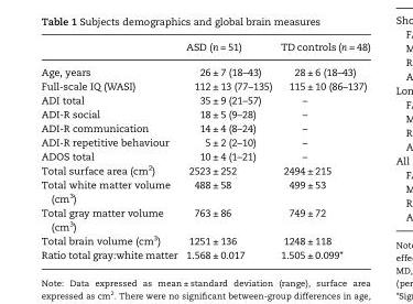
<table><thead><tr><td></td><td>ASD (n = 51)</td><td>TD controls (n = 48)</td></tr></thead><tbody><tr><td>Age, years</td><td>26 ± 7 (18–43)</td><td>28 ± 6 (18–43)</td></tr><tr><td>Full-scale IQ (WASI)</td><td>112 ± 13 (77–135)</td><td>115 ± 10 (86–137)</td></tr><tr><td>ADI total</td><td>35 ± 9 (21–57)</td><td>–</td></tr><tr><td>ADI-R social</td><td>18 ± 5 (9–28)</td><td>–</td></tr><tr><td>ADI-R communication</td><td>14 ± 4 (8–24)</td><td>–</td></tr><tr><td>ADI-R repetitive behaviour</td><td>5 ± 2 (2–10)</td><td>–</td></tr><tr><td>ADOS total</td><td>10 ± 4 (1–21)</td><td>–</td></tr><tr><td>Total surface area (cm<sup>2</sup>)</td><td>2523 ± 252</td><td>2494 ± 215</td></tr><tr><td>Total white matter volume (cm<sup>3</sup>)</td><td>488 ± 58</td><td>499 ± 53</td></tr><tr><td>Total gray matter volume (cm<sup>3</sup>)</td><td>763 ± 86</td><td>749 ± 72</td></tr><tr><td>Total brain volume (cm<sup>3</sup>)</td><td>1251 ± 136</td><td>1248 ± 118</td></tr><tr><td>Ratio total gray:white matter</td><td>1.568 ± 0.017</td><td>1.505 ± 0.099*</td></tr></tbody></table>